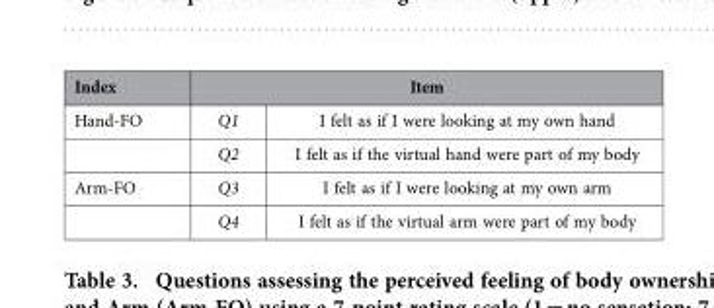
<table><thead><tr><td rowspan="2">Index Hand-FO</td><td colspan="2">Item</td></tr><tr><td>Q1</td><td>I felt as if I were looking at my own hand</td></tr></thead><tbody><tr><td></td><td>Q2</td><td>I felt as if the virtual hand were part of my body</td></tr><tr><td rowspan="2">Arm-FO</td><td>Q3</td><td>I felt as if I were looking at my own arm</td></tr><tr><td>Q4</td><td>I felt as if the virtual arm were part of my body</td></tr></tbody></table>